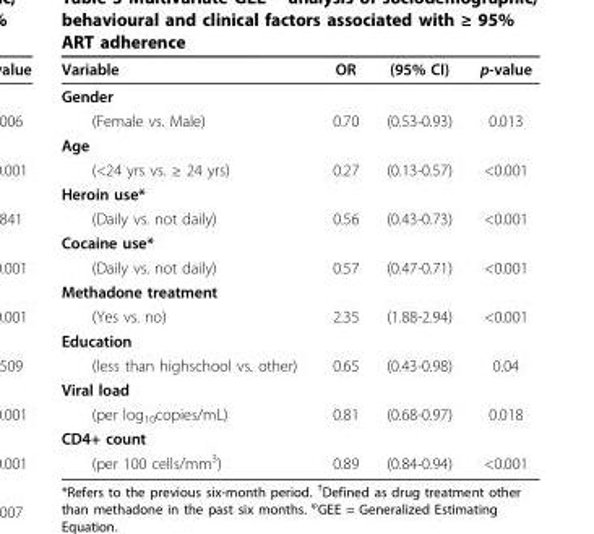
<table><thead><tr><td>Variable</td><td>OR</td><td>(95% CI)</td><td>p-value</td></tr></thead><tbody><tr><td colspan="4">Gender</td></tr><tr><td>(Female vs. Male)</td><td>0.70</td><td>(0.53-0.93)</td><td>0.013</td></tr><tr><td colspan="4">Age</td></tr><tr><td>(&lt;24 yrs vs. ≥ 24 yrs)</td><td>0.27</td><td>(0.13-0.57)</td><td>&lt;0.001</td></tr><tr><td colspan="4">Heroin use*</td></tr><tr><td>(Daily vs. not daily)</td><td>0.56</td><td>(0.43-0.73)</td><td>&lt;0.001</td></tr><tr><td colspan="4">Cocaine use*</td></tr><tr><td>(Daily vs. not daily)</td><td>0.57</td><td>(0.47-0.71)</td><td>&lt;0.001</td></tr><tr><td colspan="4">Methadone treatment</td></tr><tr><td>(Yes vs. no)</td><td>2.35</td><td>(1.88-2.94)</td><td>&lt;0.001</td></tr><tr><td colspan="4">Education</td></tr><tr><td>(less than highschool vs. other)</td><td>0.65</td><td>(0.43-0.98)</td><td>0.04</td></tr><tr><td colspan="4">Viral load</td></tr><tr><td>(per log<sub>10</sub>copies/mL)</td><td>0.81</td><td>(0.68-0.97)</td><td>0.018</td></tr><tr><td colspan="4">CD4+ count</td></tr><tr><td>(per 100 cells/mm<sup>3</sup>)</td><td>0.89</td><td>(0.84-0.94)</td><td>&lt;0.001</td></tr></tbody></table>